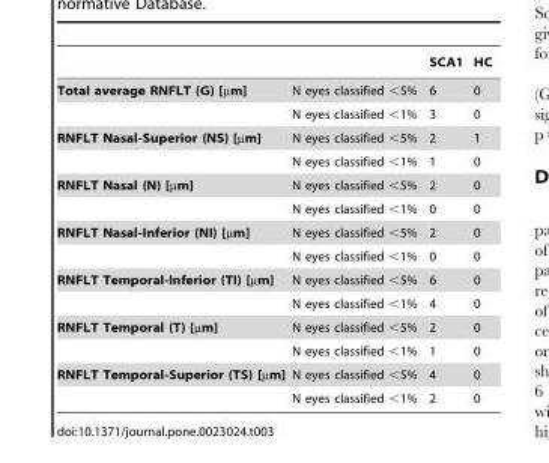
<table><thead><tr><td></td><td></td><td>SCA1</td><td>HC</td></tr></thead><tbody><tr><td rowspan="2">Total average RNFLT (G) [µm]</td><td>N eyes classified &lt;5%</td><td>6</td><td>0</td></tr><tr><td>N eyes classified &lt;1%</td><td>3</td><td>0</td></tr><tr><td rowspan="2">RNFLT Nasal-Superior (NS) [µm]</td><td>N eyes classified &lt;5%</td><td>2</td><td>1</td></tr><tr><td>N eyes classified &lt;1%</td><td>1</td><td>0</td></tr><tr><td rowspan="2">RNFLT Nasal (N) [µm]</td><td>N eyes classified &lt;5%</td><td>2</td><td>0</td></tr><tr><td>N eyes classified &lt;1%</td><td>0</td><td>0</td></tr><tr><td rowspan="2">RNFLT Nasal-Inferior (NI) [µm]</td><td>N eyes classified &lt;5%</td><td>2</td><td>0</td></tr><tr><td>N eyes classified &lt;1%</td><td>0</td><td>0</td></tr><tr><td rowspan="2">RNFLT Temporal-Inferior (TI) [µm]</td><td>N eyes classified &lt;5%</td><td>6</td><td>0</td></tr><tr><td>N eyes classified &lt;1%</td><td>4</td><td>0</td></tr><tr><td rowspan="2">RNFLT Temporal (T) [µm]</td><td>N eyes classified &lt;5%</td><td>2</td><td>0</td></tr><tr><td>N eyes classified &lt;1%</td><td>1</td><td>0</td></tr><tr><td rowspan="2">RNFLT Temporal-Superior (TS) [µm]</td><td>N eyes classified &lt;5%</td><td>4</td><td>0</td></tr><tr><td>N eyes classified &lt;1%</td><td>2</td><td>0</td></tr></tbody></table>